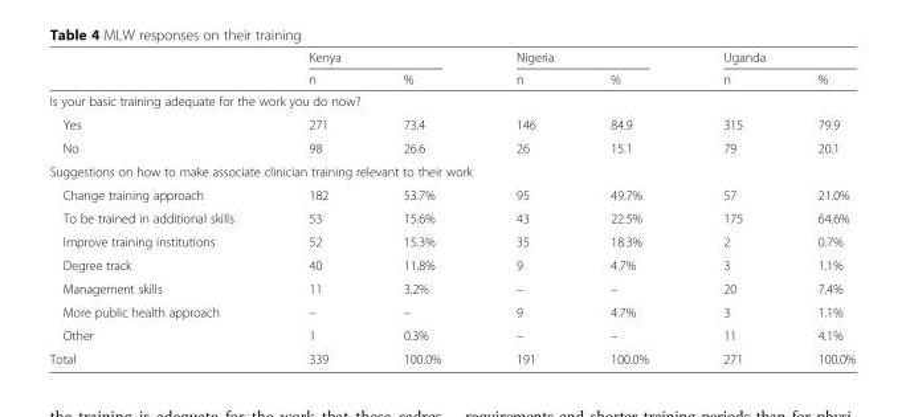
<table><thead><tr><td rowspan="2"></td><td colspan="2">Kenya</td><td colspan="2">Nigeria</td><td colspan="2">Uganda</td></tr><tr><td>n</td><td>%</td><td>n</td><td>%</td><td>n</td><td>%</td></tr></thead><tbody><tr><td colspan="7">Is your basic training adequate for the work you do now?</td></tr><tr><td>Yes</td><td>271</td><td>73.4</td><td>146</td><td>84.9</td><td>315</td><td>79.9</td></tr><tr><td>No</td><td>98</td><td>26.6</td><td>26</td><td>15.1</td><td>79</td><td>20.1</td></tr><tr><td colspan="7">Suggestions on how to make associate clinician training relevant to their work</td></tr><tr><td>Change training approach</td><td>182</td><td>53.7%</td><td>95</td><td>49.7%</td><td>57</td><td>21.0%</td></tr><tr><td>To be trained in additional skills</td><td>53</td><td>15.6%</td><td>43</td><td>22.5%</td><td>175</td><td>64.6%</td></tr><tr><td>Improve training institutions</td><td>52</td><td>15.3%</td><td>35</td><td>18.3%</td><td>2</td><td>0.7%</td></tr><tr><td>Degree track</td><td>40</td><td>11.8%</td><td>9</td><td>4.7%</td><td>3</td><td>1.1%</td></tr><tr><td>Management skills</td><td>11</td><td>3.2%</td><td>–</td><td>–</td><td>20</td><td>7.4%</td></tr><tr><td>More public health approach</td><td>–</td><td>–</td><td>9</td><td>4.7%</td><td>3</td><td>1.1%</td></tr><tr><td>Other</td><td>1</td><td>0.3%</td><td>–</td><td>–</td><td>11</td><td>4.1%</td></tr><tr><td>Total</td><td>339</td><td>100.0%</td><td>191</td><td>100.0%</td><td>271</td><td>100.0%</td></tr></tbody></table>